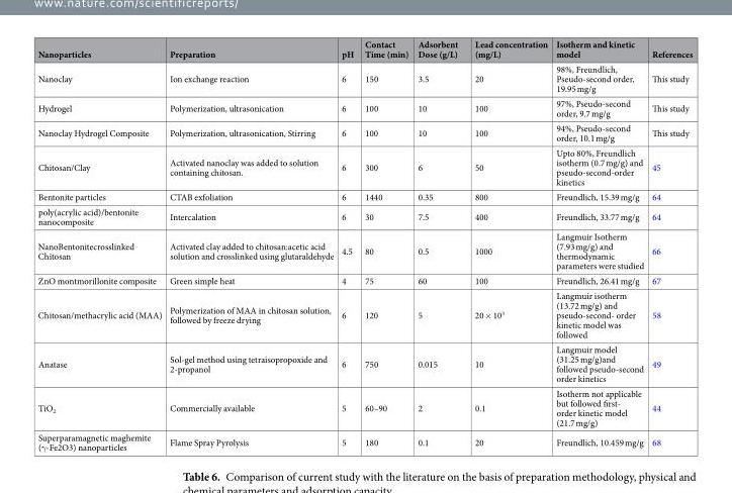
<table><thead><tr><td>Nanoparticles</td><td>Preparation</td><td>pH</td><td>Contact Time (min)</td><td>Adsorbent Dose (g/L)</td><td>Lead concentration (mg/L)</td><td>Isotherm and kinetic model</td><td>References</td></tr></thead><tbody><tr><td>Nanoclay</td><td>Ion exchange reaction</td><td>6</td><td>150</td><td>3.5</td><td>20</td><td>98%, Freundlich, Pseudo-second order, 19.95 mg/g</td><td>This study</td></tr><tr><td>Hydrogel</td><td>Polymerization, ultrasonication</td><td>6</td><td>100</td><td>10</td><td>100</td><td>97%, Pseudo-second order, 9.7 mg/g</td><td>This study</td></tr><tr><td>Nanoclay Hydrogel Composite</td><td>Polymerization, ultrasonication, Stirring</td><td>6</td><td>100</td><td>10</td><td>100</td><td>94%, Pseudo-second order, 10.1 mg/g</td><td>This study</td></tr><tr><td>Chitosan/Clay</td><td>Activated nanoclay was added to solution containing chitosan.</td><td>6</td><td>300</td><td>6</td><td>50</td><td>Upto 80%, Freundlich isotherm (0.7 mg/g) and pseudo-second-order kinetics</td><td>45</td></tr><tr><td>Bentonite particles</td><td>CTAB exfoliation</td><td>6</td><td>1440</td><td>0.35</td><td>800</td><td>Freundlich, 15.39 mg/g</td><td>64</td></tr><tr><td>poly(acrylic acid)/bentonite nanocomposite</td><td>Intercalation</td><td>6</td><td>30</td><td>7.5</td><td>400</td><td>Freundlich, 33.77 mg/g</td><td>64</td></tr><tr><td>NanoBentonitecrosslinked Chitosan</td><td>Activated clay added to chitosan:acetic acid solution and crosslinked using glutaraldehyde</td><td>4.5</td><td>80</td><td>0.5</td><td>1000</td><td>Langmuir Isotherm (7.93 mg/g) and thermodynamic parameters were studied</td><td>66</td></tr><tr><td>ZnO montmorillonite composite</td><td>Green simple heat</td><td>4</td><td>75</td><td>60</td><td>100</td><td>Freundlich, 26.41 mg/g</td><td>67</td></tr><tr><td>Chitosan/methacrylic acid (MAA)</td><td>Polymerization of MAA in chitosan solution, followed by freeze drying</td><td>6</td><td>120</td><td>5</td><td>20 × 10<sup>3</sup></td><td>Langmuir isotherm (13.72 mg/g) and pseudo-second- order kinetic model was followed</td><td>58</td></tr><tr><td>Anatase</td><td>Sol-gel method using tetraisopropoxide and 2-propanol</td><td>6</td><td>750</td><td>0.015</td><td>10</td><td>Langmuir model (31.25 mg/g)and followed pseudo-second order kinetics</td><td>49</td></tr><tr><td>TiO<sub>2</sub></td><td>Commercially available</td><td>5</td><td>60–90</td><td>2</td><td>0.1</td><td>Isotherm not applicable but followed first- order kinetic model (21.7 mg/g)</td><td>44</td></tr><tr><td>Superparamagnetic maghemite (γ-Fe2O3) nanoparticles</td><td>Flame Spray Pyrolysis</td><td>5</td><td>180</td><td>0.1</td><td>20</td><td>Freundlich, 10.459 mg/g</td><td>68</td></tr></tbody></table>